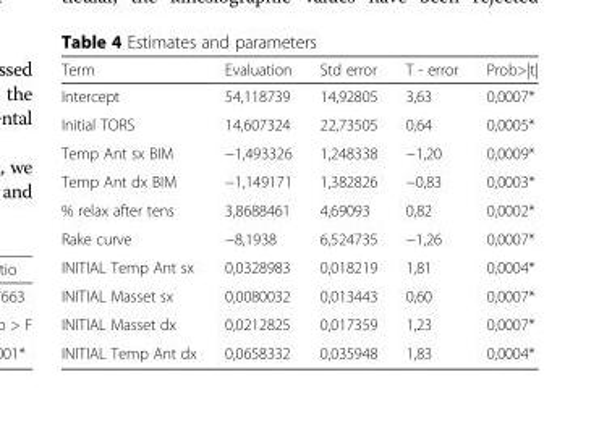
<table><thead><tr><td>Term</td><td>Evaluation</td><td>Std error</td><td>T - error</td><td>Prob&gt;|t|</td></tr></thead><tbody><tr><td>Intercept</td><td>54,118739</td><td>14,92805</td><td>3,63</td><td>0,0007*</td></tr><tr><td>Initial TORS</td><td>14,607324</td><td>22,73505</td><td>0,64</td><td>0,0005*</td></tr><tr><td>Temp Ant sx BIM</td><td>−1,493326</td><td>1,248338</td><td>−1,20</td><td>0,0009*</td></tr><tr><td>Temp Ant dx BIM</td><td>−1,149171</td><td>1,382826</td><td>−0,83</td><td>0,0003*</td></tr><tr><td>% relax after tens</td><td>3,8688461</td><td>4,69093</td><td>0,82</td><td>0,0002*</td></tr><tr><td>Rake curve</td><td>−8,1938</td><td>6,524735</td><td>−1,26</td><td>0,0007*</td></tr><tr><td>INITIAL Temp Ant sx</td><td>0,0328983</td><td>0,018219</td><td>1,81</td><td>0,0004*</td></tr><tr><td>INITIAL Masset sx</td><td>0,0080032</td><td>0,013443</td><td>0,60</td><td>0,0007*</td></tr><tr><td>INITIAL Masset dx</td><td>0,0212825</td><td>0,017359</td><td>1,23</td><td>0,0007*</td></tr><tr><td>INITIAL Temp Ant dx</td><td>0,0658332</td><td>0,035948</td><td>1,83</td><td>0,0004*</td></tr></tbody></table>